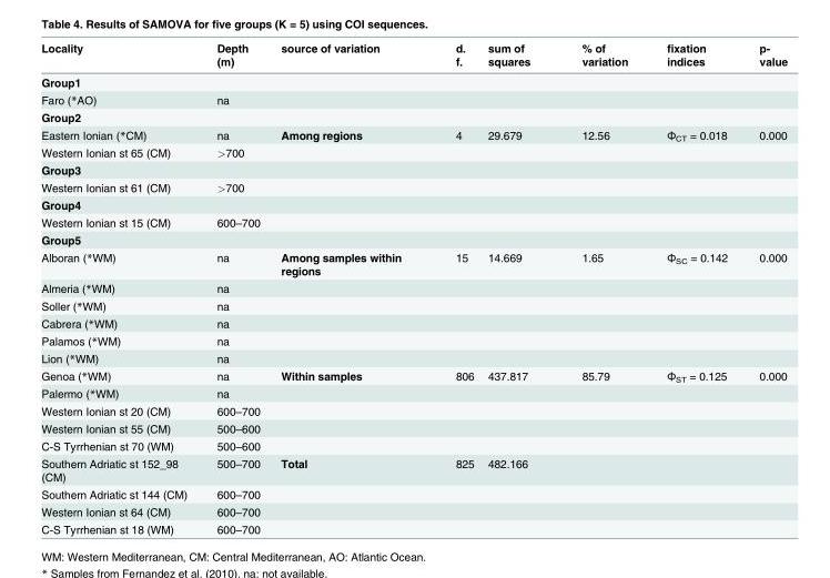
<table><thead><tr><td>Locality</td><td>Depth (m)</td><td>source of variation</td><td>d. f.</td><td>sum of squares</td><td>% of variation</td><td>fixation indices</td><td>p- value</td></tr></thead><tbody><tr><td colspan="8">Group1</td></tr><tr><td>Faro (*AO)</td><td>na</td><td></td><td></td><td></td><td></td><td></td><td></td></tr><tr><td colspan="8">Group2</td></tr><tr><td>Eastern Ionian (*CM)</td><td>na</td><td>Among regions</td><td>4</td><td>29.679</td><td>12.56</td><td>Φ<sub>CT</sub> = 0.018</td><td>0.000</td></tr><tr><td>Western Ionian st 65 (CM)</td><td>&gt;700</td><td></td><td></td><td></td><td></td><td></td><td></td></tr><tr><td colspan="8">Group3</td></tr><tr><td>Western Ionian st 61 (CM)</td><td>&gt;700</td><td></td><td></td><td></td><td></td><td></td><td></td></tr><tr><td colspan="8">Group4</td></tr><tr><td>Western Ionian st 15 (CM)</td><td>600–700</td><td></td><td></td><td></td><td></td><td></td><td></td></tr><tr><td colspan="8">Group5</td></tr><tr><td>Alboran (*WM)</td><td>na</td><td>Among samples within regions</td><td>15</td><td>14.669</td><td>1.65</td><td>Φ<sub>SC</sub> = 0.142</td><td>0.000</td></tr><tr><td>Almeria (*WM)</td><td>na</td><td></td><td></td><td></td><td></td><td></td><td></td></tr><tr><td>Soller (*WM)</td><td>na</td><td></td><td></td><td></td><td></td><td></td><td></td></tr><tr><td>Cabrera (*WM)</td><td>na</td><td></td><td></td><td></td><td></td><td></td><td></td></tr><tr><td>Palamos (*WM)</td><td>na</td><td></td><td></td><td></td><td></td><td></td><td></td></tr><tr><td>Lion (*WM)</td><td>na</td><td></td><td></td><td></td><td></td><td></td><td></td></tr><tr><td>Genoa (*WM)</td><td>na</td><td>Within samples</td><td>806</td><td>437.817</td><td>85.79</td><td>Φ<sub>ST</sub> = 0.125</td><td>0.000</td></tr><tr><td>Palermo (*WM)</td><td>na</td><td></td><td></td><td></td><td></td><td></td><td></td></tr><tr><td>Western Ionian st 20 (CM)</td><td>600–700</td><td></td><td></td><td></td><td></td><td></td><td></td></tr><tr><td>Western Ionian st 55 (CM)</td><td>500–600</td><td></td><td></td><td></td><td></td><td></td><td></td></tr><tr><td>C-S Tyrrhenian st 70 (WM)</td><td>500–600</td><td></td><td></td><td></td><td></td><td></td><td></td></tr><tr><td>Southern Adriatic st 152_98 (CM)</td><td>500–700</td><td>Total</td><td>825</td><td>482.166</td><td></td><td></td><td></td></tr><tr><td>Southern Adriatic st 144 (CM)</td><td>600–700</td><td></td><td></td><td></td><td></td><td></td><td></td></tr><tr><td>Western Ionian st 64 (CM)</td><td>600–700</td><td></td><td></td><td></td><td></td><td></td><td></td></tr><tr><td>C-S Tyrrhenian st 18 (WM)</td><td>600–700</td><td></td><td></td><td></td><td></td><td></td><td></td></tr></tbody></table>